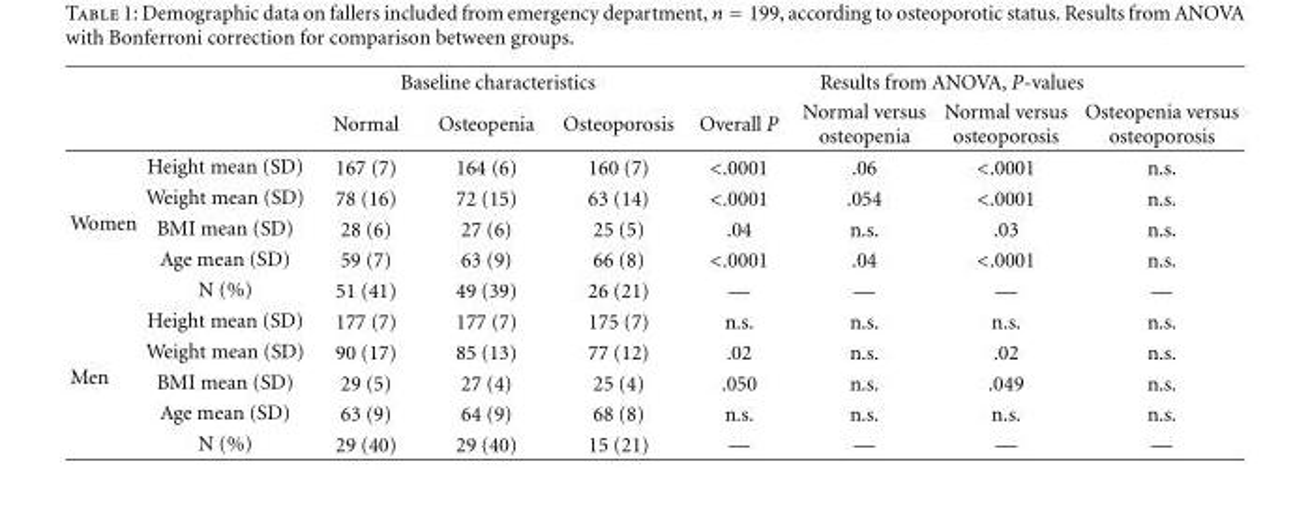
<table><thead><tr><td rowspan="2"></td><td rowspan="2"></td><td colspan="3">Baseline characteristics</td><td colspan="4">Results from ANOVA, P-values</td></tr><tr><td>Normal</td><td>Osteopenia</td><td>Osteoporosis</td><td>Overall P</td><td>Normal versus osteopenia</td><td>Normal versus osteoporosis</td><td>Osteopenia versus osteoporosis</td></tr></thead><tbody><tr><td rowspan="5">Women</td><td>Height mean (SD)</td><td>167 (7)</td><td>164 (6)</td><td>160 (7)</td><td>&lt;.0001</td><td>.06</td><td>&lt;.0001</td><td>n.s.</td></tr><tr><td>Weight mean (SD)</td><td>78 (16)</td><td>72 (15)</td><td>63 (14)</td><td>&lt;.0001</td><td>.054</td><td>&lt;.0001</td><td>n.s.</td></tr><tr><td>BMI mean (SD)</td><td>28 (6)</td><td>27 (6)</td><td>25 (5)</td><td>.04</td><td>n.s.</td><td>.03</td><td>n.s.</td></tr><tr><td>Age mean (SD)</td><td>59 (7)</td><td>63 (9)</td><td>66 (8)</td><td>&lt;.0001</td><td>.04</td><td>&lt;.0001</td><td>n.s.</td></tr><tr><td>N (%)</td><td>51 (41)</td><td>49 (39)</td><td>26 (21)</td><td>—</td><td>—</td><td>—</td><td>—</td></tr><tr><td rowspan="5">Men</td><td>Height mean (SD)</td><td>177 (7)</td><td>177 (7)</td><td>175 (7)</td><td>n.s.</td><td>n.s.</td><td>n.s.</td><td>n.s.</td></tr><tr><td>Weight mean (SD)</td><td>90 (17)</td><td>85 (13)</td><td>77 (12)</td><td>.02</td><td>n.s.</td><td>.02</td><td>n.s.</td></tr><tr><td>BMI mean (SD)</td><td>29 (5)</td><td>27 (4)</td><td>25 (4)</td><td>.050</td><td>n.s.</td><td>.049</td><td>n.s.</td></tr><tr><td>Age mean (SD)</td><td>63 (9)</td><td>64 (9)</td><td>68 (8)</td><td>n.s.</td><td>n.s.</td><td>n.s.</td><td>n.s.</td></tr><tr><td>N (%)</td><td>29 (40)</td><td>29 (40)</td><td>15 (21)</td><td>—</td><td>—</td><td>—</td><td>—</td></tr></tbody></table>